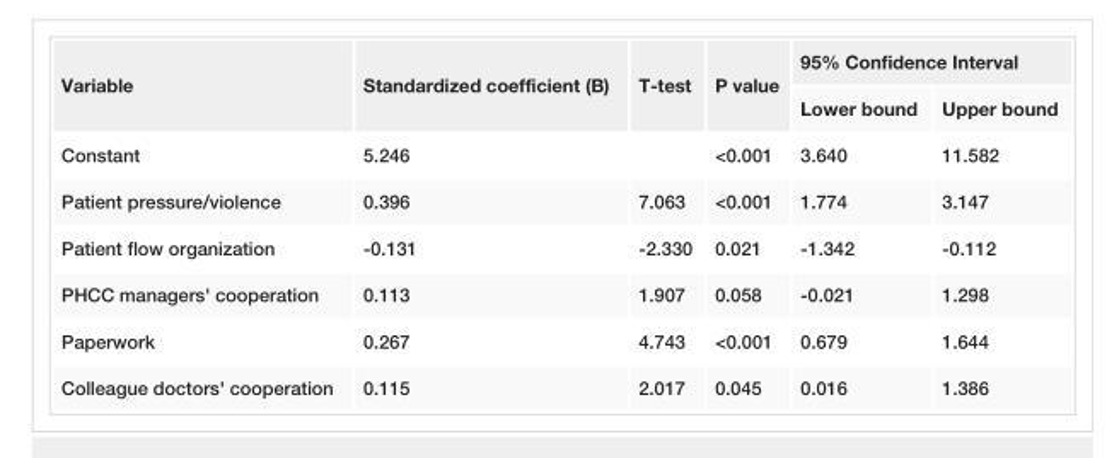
<table><tbody><tr><td rowspan="2">Variable</td><td rowspan="2">Standardized coefficient (B)</td><td rowspan="2">T-test</td><td rowspan="2">P value</td><td colspan="2">95% Confidence Interval</td></tr><tr><td>Lower bound</td><td>Upper bound</td></tr><tr><td>Constant</td><td>5.246</td><td></td><td>&lt;0.001</td><td>3.640</td><td>11.582</td></tr><tr><td>Patient pressure/violence</td><td>0.396</td><td>7.063</td><td>&lt;0.001</td><td>1.774</td><td>3.147</td></tr><tr><td>Patient flow organization</td><td>-0.131</td><td>-2.330</td><td>0.021</td><td>-1.342</td><td>-0.112</td></tr><tr><td>PHCC managers&#x27; cooperation</td><td>0.113</td><td>1.907</td><td>0.058</td><td>-0.021</td><td>1.298</td></tr><tr><td>Paperwork</td><td>0.267</td><td>4.743</td><td>&lt;0.001</td><td>0.679</td><td>1.644</td></tr><tr><td>Colleague doctors&#x27; cooperation</td><td>0.115</td><td>2.017</td><td>0.045</td><td>0.016</td><td>1.386</td></tr></tbody></table>